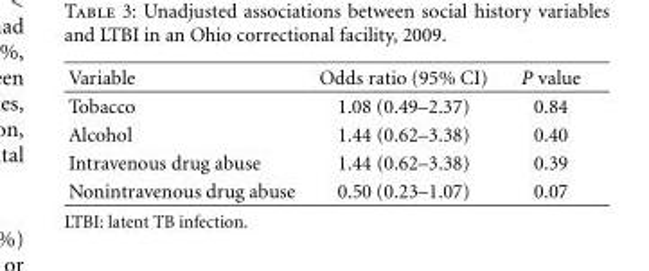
<table><thead><tr><td>Variable</td><td>Odds ratio (95% CI)</td><td>P value</td></tr></thead><tbody><tr><td>Tobacco</td><td>1.08 (0.49–2.37)</td><td>0.84</td></tr><tr><td>Alcohol</td><td>1.44 (0.62–3.38)</td><td>0.40</td></tr><tr><td>Intravenous drug abuse</td><td>1.44 (0.62–3.38)</td><td>0.39</td></tr><tr><td>Nonintravenous drug abuse</td><td>0.50 (0.23–1.07)</td><td>0.07</td></tr></tbody></table>